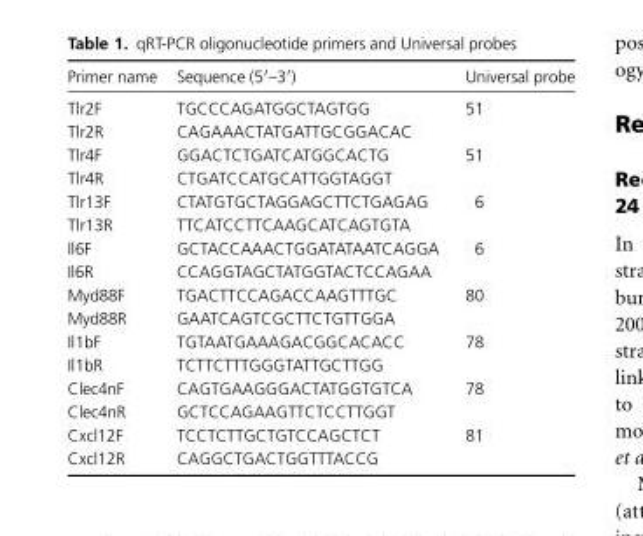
<table><thead><tr><td>Primer name</td><td>Sequence (5′–3′)</td><td>Universal probe</td></tr></thead><tbody><tr><td>Tlr2F</td><td>TGCCCAGATGGCTAGTGG</td><td>51</td></tr><tr><td>Tlr2R</td><td>CAGAAACTATGATTGCGGACAC</td><td></td></tr><tr><td>Tlr4F</td><td>GGACTCTGATCATGGCACTG</td><td>51</td></tr><tr><td>Tlr4R</td><td>CTGATCCATGCATTGGTAGGT</td><td></td></tr><tr><td>Tlr13F</td><td>CTATGTGCTAGGAGCTTCTGAGAG</td><td>6</td></tr><tr><td>Tlr13R</td><td>TTCATCCTTCAAGCATCAGTGTA</td><td></td></tr><tr><td>Il6F</td><td>GCTACCAAACTGGATATAATCAGGA</td><td>6</td></tr><tr><td>Il6R</td><td>CCAGGTAGCTATGGTACTCCAGAA</td><td></td></tr><tr><td>Myd88F</td><td>TGACTTCCAGACCAAGTTTGC</td><td>80</td></tr><tr><td>Myd88R</td><td>GAATCAGTCGCTTCTGTTGGA</td><td></td></tr><tr><td>Il1bF</td><td>TGTAATGAAAGACGGCACACC</td><td>78</td></tr><tr><td>Il1bR</td><td>TCTTCTTTGGGTATTGCTTGG</td><td></td></tr><tr><td>Clec4nF</td><td>CAGTGAAGGGACTATGGTGTCA</td><td>78</td></tr><tr><td>Clec4nR</td><td>GCTCCAGAAGTTCTCCTTGGT</td><td></td></tr><tr><td>Cxcl12F</td><td>TCCTCTTGCTGTCCAGCTCT</td><td>81</td></tr><tr><td>Cxcl12R</td><td>CAGGCTGACTGGTTTACCG</td><td></td></tr></tbody></table>